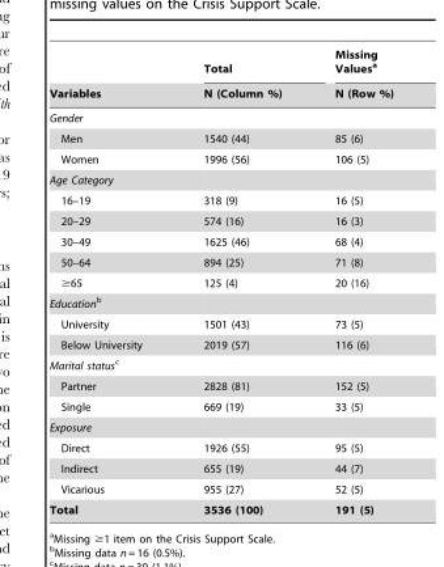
<table><thead><tr><td rowspan="2">Variables</td><td rowspan="2">Total N (Column %)</td><td rowspan="2">Missing Values<sup>a</sup> N (Row %)</td></tr><tr></tr></thead><tbody><tr><td colspan="3">Gender</td></tr><tr><td>Men</td><td>1540 (44)</td><td>85 (6)</td></tr><tr><td>Women</td><td>1996 (56)</td><td>106 (5)</td></tr><tr><td colspan="3">Age Category</td></tr><tr><td>16–19</td><td>318 (9)</td><td>16 (5)</td></tr><tr><td>20–29</td><td>574 (16)</td><td>16 (3)</td></tr><tr><td>30–49</td><td>1625 (46)</td><td>68 (4)</td></tr><tr><td>50–64</td><td>894 (25)</td><td>71 (8)</td></tr><tr><td>≥65</td><td>125 (4)</td><td>20 (16)</td></tr><tr><td colspan="3">Educationb</td></tr><tr><td>University</td><td>1501 (43)</td><td>73 (5)</td></tr><tr><td>Below University</td><td>2019 (57)</td><td>116 (6)</td></tr><tr><td colspan="3">Marital statusc</td></tr><tr><td>Partner</td><td>2828 (81)</td><td>152 (5)</td></tr><tr><td>Single</td><td>669 (19)</td><td>33 (5)</td></tr><tr><td colspan="3">Exposure</td></tr><tr><td>Direct</td><td>1926 (55)</td><td>95 (5)</td></tr><tr><td>Indirect</td><td>655 (19)</td><td>44 (7)</td></tr><tr><td>Vicarious</td><td>955 (27)</td><td>52 (5)</td></tr><tr><td>Total</td><td>3536 (100)</td><td>191 (5)</td></tr></tbody></table>